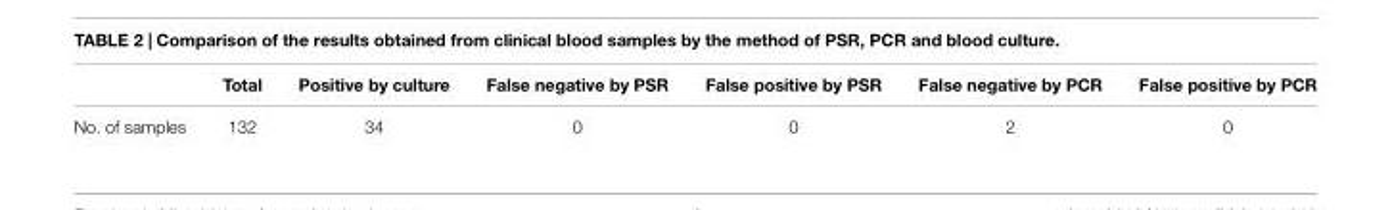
<table><thead><tr><td></td><td>Total</td><td>Positive by culture</td><td>False negative by PSR</td><td>False positive by PSR</td><td>False negative by PCR</td><td>False positive by PCR</td></tr></thead><tbody><tr><td>No. of samples</td><td>132</td><td>34</td><td>0</td><td>0</td><td>2</td><td>0</td></tr></tbody></table>